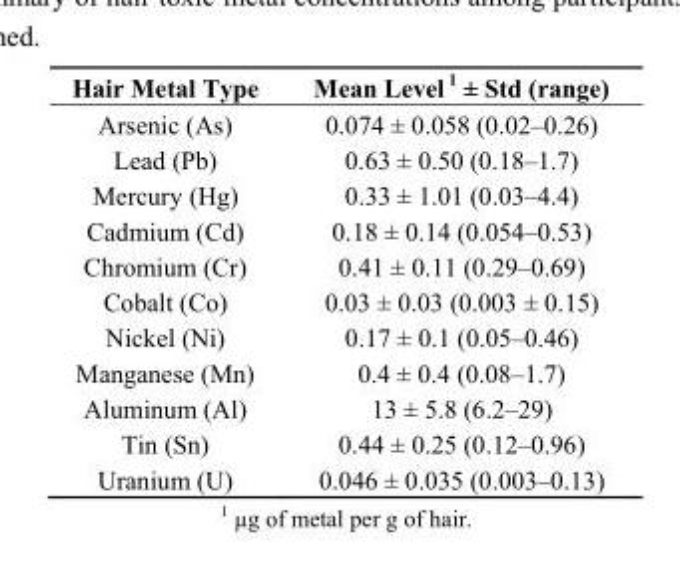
<table><thead><tr><td>Hair Metal Type</td><td>Mean Level <sup>1</sup> ± Std (range)</td></tr></thead><tbody><tr><td>Arsenic (As)</td><td>0.074 ± 0.058 (0.02–0.26)</td></tr><tr><td>Lead (Pb)</td><td>0.63 ± 0.50 (0.18–1.7)</td></tr><tr><td>Mercury (Hg)</td><td>0.33 ± 1.01 (0.03–4.4)</td></tr><tr><td>Cadmium (Cd)</td><td>0.18 ± 0.14 (0.054–0.53)</td></tr><tr><td>Chromium (Cr)</td><td>0.41 ± 0.11 (0.29–0.69)</td></tr><tr><td>Cobalt (Co)</td><td>0.03 ± 0.03 (0.003 ± 0.15)</td></tr><tr><td>Nickel (Ni)</td><td>0.17 ± 0.1 (0.05–0.46)</td></tr><tr><td>Manganese (Mn)</td><td>0.4 ± 0.4 (0.08–1.7)</td></tr><tr><td>Aluminum (Al)</td><td>13 ± 5.8 (6.2–29)</td></tr><tr><td>Tin (Sn)</td><td>0.44 ± 0.25 (0.12–0.96)</td></tr><tr><td>Uranium (U)</td><td>0.046 ± 0.035 (0.003–0.13)</td></tr></tbody></table>